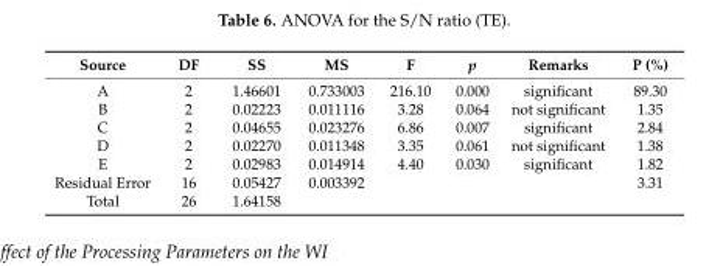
<table><thead><tr><td>Source</td><td>DF</td><td>SS</td><td>MS</td><td>F</td><td>p</td><td>Remarks</td><td>P (%)</td></tr></thead><tbody><tr><td>A</td><td>2</td><td>1.46601</td><td>0.733003</td><td>216.10</td><td>0.000</td><td>significant</td><td>89.30</td></tr><tr><td>B</td><td>2</td><td>0.02223</td><td>0.011116</td><td>3.28</td><td>0.064</td><td>not significant</td><td>1.35</td></tr><tr><td>C</td><td>2</td><td>0.04655</td><td>0.023276</td><td>6.86</td><td>0.007</td><td>significant</td><td>2.84</td></tr><tr><td>D</td><td>2</td><td>0.02270</td><td>0.011348</td><td>3.35</td><td>0.061</td><td>not significant</td><td>1.38</td></tr><tr><td>E</td><td>2</td><td>0.02983</td><td>0.014914</td><td>4.40</td><td>0.030</td><td>significant</td><td>1.82</td></tr><tr><td>Residual Error</td><td>16</td><td>0.05427</td><td>0.003392</td><td></td><td></td><td></td><td>3.31</td></tr><tr><td>Total</td><td>26</td><td>1.64158</td><td></td><td></td><td></td><td></td><td></td></tr></tbody></table>